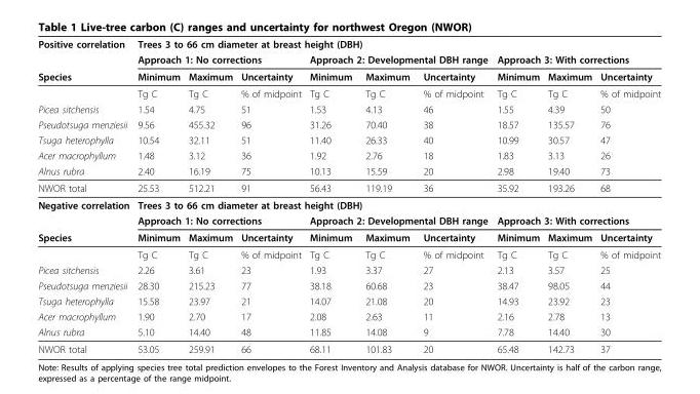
<table><thead><tr><td rowspan="3">Positive correlation Species</td><td colspan="9">Trees 3 to 66 cm diameter at breast height (DBH)</td></tr><tr><td colspan="3">Approach 1: No corrections</td><td colspan="3">Approach 2: Developmental DBH range</td><td colspan="3">Approach 3: With corrections</td></tr><tr><td>Minimum</td><td>Maximum</td><td>Uncertainty</td><td>Minimum</td><td>Maximum</td><td>Uncertainty</td><td>Minimum</td><td>Maximum</td><td>Uncertainty</td></tr></thead><tbody><tr><td></td><td>Tg C</td><td>Tg C</td><td>% of midpoint</td><td>Tg C</td><td>Tg C</td><td>% of midpoint</td><td>Tg C</td><td>Tg C</td><td>% of midpoint</td></tr><tr><td>Picea sitchensis</td><td>1.54</td><td>4.75</td><td>51</td><td>1.53</td><td>4.13</td><td>46</td><td>1.55</td><td>4.39</td><td>50</td></tr><tr><td>Pseudotsuga menziesii</td><td>9.56</td><td>455.32</td><td>96</td><td>31.26</td><td>70.40</td><td>38</td><td>18.57</td><td>135.57</td><td>76</td></tr><tr><td>Tsuga heterophylla</td><td>10.54</td><td>32.11</td><td>51</td><td>11.40</td><td>26.33</td><td>40</td><td>10.99</td><td>30.57</td><td>47</td></tr><tr><td>Acer macrophyllum</td><td>1.48</td><td>3.12</td><td>36</td><td>1.92</td><td>2.76</td><td>18</td><td>1.83</td><td>3.13</td><td>26</td></tr><tr><td>Alnus rubra</td><td>2.40</td><td>16.19</td><td>75</td><td>10.13</td><td>15.59</td><td>20</td><td>2.98</td><td>19.40</td><td>73</td></tr><tr><td>NWOR total</td><td>25.53</td><td>512.21</td><td>91</td><td>56.43</td><td>119.19</td><td>36</td><td>35.92</td><td>193.26</td><td>68</td></tr><tr><td rowspan="2">Negative correlation</td><td colspan="9">Trees 3 to 66 cm diameter at breast height (DBH)</td></tr><tr><td colspan="3">Approach 1: No corrections</td><td colspan="3">Approach 2: Developmental DBH range</td><td colspan="3">Approach 3: With corrections</td></tr><tr><td rowspan="2">Species</td><td>Minimum</td><td>Maximum</td><td>Uncertainty</td><td>Minimum</td><td>Maximum</td><td>Uncertainty</td><td>Minimum</td><td>Maximum</td><td>Uncertainty</td></tr><tr><td>Tg C</td><td>Tg C</td><td>% of midpoint</td><td>Tg C</td><td>Tg C</td><td>% of midpoint</td><td>Tg C</td><td>Tg C</td><td>% of midpoint</td></tr><tr><td>Picea sitchensis</td><td>2.26</td><td>3.61</td><td>23</td><td>1.93</td><td>3.37</td><td>27</td><td>2.13</td><td>3.57</td><td>25</td></tr><tr><td>Pseudotsuga menziesii</td><td>28.30</td><td>215.23</td><td>77</td><td>38.18</td><td>60.68</td><td>23</td><td>38.47</td><td>98.05</td><td>44</td></tr><tr><td>Tsuga heterophylla</td><td>15.58</td><td>23.97</td><td>21</td><td>14.07</td><td>21.08</td><td>20</td><td>14.93</td><td>23.92</td><td>23</td></tr><tr><td>Acer macrophyllum</td><td>1.90</td><td>2.70</td><td>17</td><td>2.08</td><td>2.63</td><td>11</td><td>2.16</td><td>2.78</td><td>13</td></tr><tr><td>Alnus rubra</td><td>5.10</td><td>14.40</td><td>48</td><td>11.85</td><td>14.08</td><td>9</td><td>7.78</td><td>14.40</td><td>30</td></tr><tr><td>NWOR total</td><td>53.05</td><td>259.91</td><td>66</td><td>68.11</td><td>101.83</td><td>20</td><td>65.48</td><td>142.73</td><td>37</td></tr></tbody></table>